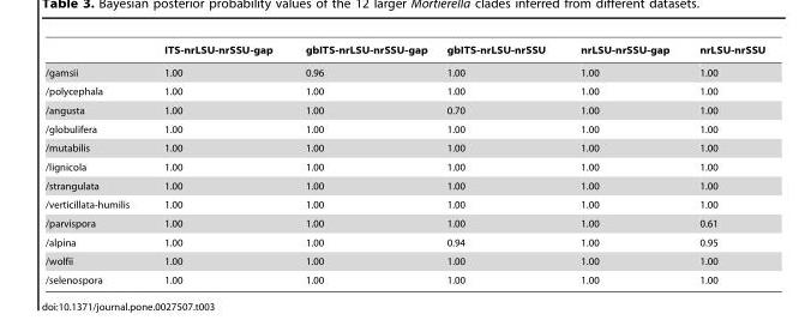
<table><thead><tr><td></td><td>ITS-nrLSU-nrSSU-gap</td><td>gbITS-nrLSU-nrSSU-gap</td><td>gbITS-nrLSU-nrSSU</td><td>nrLSU-nrSSU-gap</td><td>nrLSU-nrSSU</td></tr></thead><tbody><tr><td>/gamsii</td><td>1.00</td><td>0.96</td><td>1.00</td><td>1.00</td><td>1.00</td></tr><tr><td>/polycephala</td><td>1.00</td><td>1.00</td><td>1.00</td><td>1.00</td><td>1.00</td></tr><tr><td>/angusta</td><td>1.00</td><td>1.00</td><td>0.70</td><td>1.00</td><td>1.00</td></tr><tr><td>/globulifera</td><td>1.00</td><td>1.00</td><td>1.00</td><td>1.00</td><td>1.00</td></tr><tr><td>/mutabilis</td><td>1.00</td><td>1.00</td><td>1.00</td><td>1.00</td><td>1.00</td></tr><tr><td>/lignicola</td><td>1.00</td><td>1.00</td><td>1.00</td><td>1.00</td><td>1.00</td></tr><tr><td>/strangulata</td><td>1.00</td><td>1.00</td><td>1.00</td><td>1.00</td><td>1.00</td></tr><tr><td>/verticillata-humilis</td><td>1.00</td><td>1.00</td><td>1.00</td><td>1.00</td><td>1.00</td></tr><tr><td>/parvispora</td><td>1.00</td><td>1.00</td><td>1.00</td><td>1.00</td><td>0.61</td></tr><tr><td>/alpina</td><td>1.00</td><td>1.00</td><td>0.94</td><td>1.00</td><td>0.95</td></tr><tr><td>/wolfii</td><td>1.00</td><td>1.00</td><td>1.00</td><td>1.00</td><td>1.00</td></tr><tr><td>/selenospora</td><td>1.00</td><td>1.00</td><td>1.00</td><td>1.00</td><td>1.00</td></tr></tbody></table>